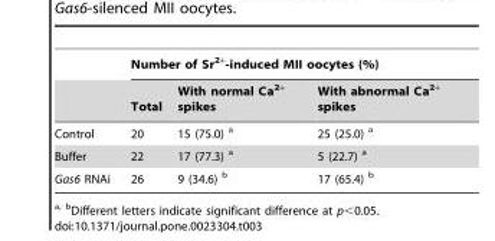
<table><thead><tr><td rowspan="2"></td><td colspan="3">Number of Sr<sup>2+</sup>-induced MII oocytes (%)</td></tr><tr><td>Total</td><td>With normal Ca<sup>2+</sup> spikes</td><td>With abnormal Ca<sup>2+</sup> spikes</td></tr></thead><tbody><tr><td>Control</td><td>20</td><td>15 (75.0) <sup>a</sup></td><td>25 (25.0) <sup>a</sup></td></tr><tr><td>Buffer</td><td>22</td><td>17 (77.3) <sup>a</sup></td><td>5 (22.7) <sup>a</sup></td></tr><tr><td>Gas6 RNAi</td><td>26</td><td>9 (34.6) <sup>b</sup></td><td>17 (65.4) <sup>b</sup></td></tr></tbody></table>